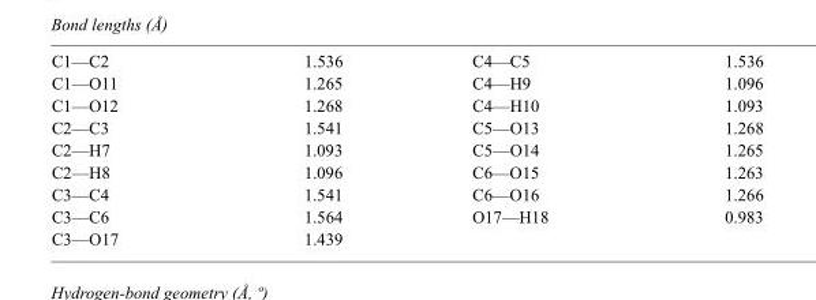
<table><tbody><tr><td>C1—C2</td><td>1.536</td><td>C4—C5</td><td>1.536</td></tr><tr><td>C1—O11</td><td>1.265</td><td>C4—H9</td><td>1.096</td></tr><tr><td>C1—O12</td><td>1.268</td><td>C4—H10</td><td>1.093</td></tr><tr><td>C2—C3</td><td>1.541</td><td>C5—O13</td><td>1.268</td></tr><tr><td>C2—H7</td><td>1.093</td><td>C5—O14</td><td>1.265</td></tr><tr><td>C2—H8</td><td>1.096</td><td>C6—O15</td><td>1.263</td></tr><tr><td>C3—C4</td><td>1.541</td><td>C6—O16</td><td>1.266</td></tr><tr><td>C3—C6</td><td>1.564</td><td>O17—H18</td><td>0.983</td></tr><tr><td>C3—O17</td><td>1.439</td><td></td><td></td></tr></tbody></table>